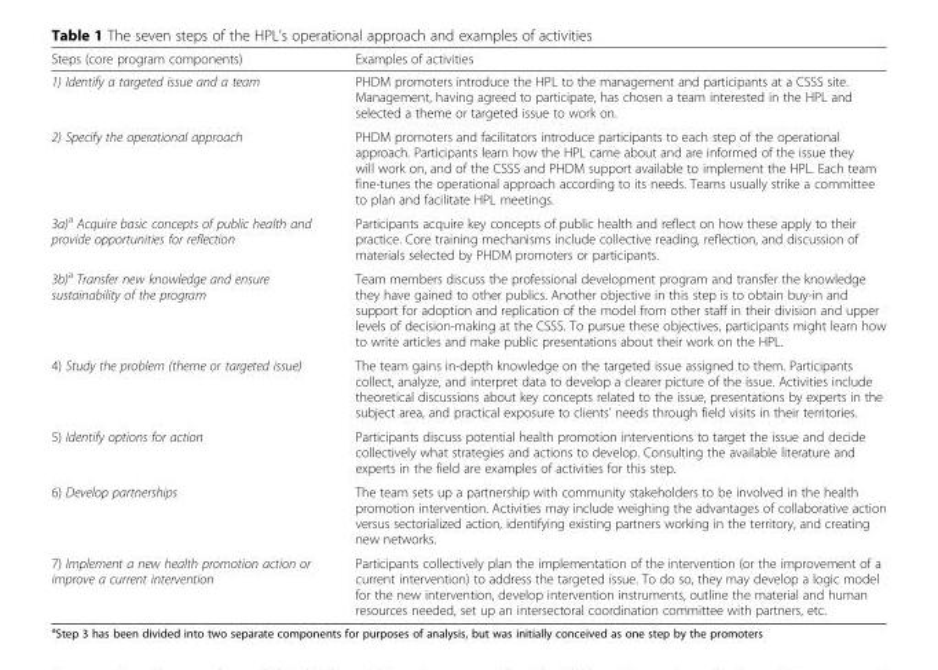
<table><thead><tr><td>Steps (core program components)</td><td>Examples of activities</td></tr></thead><tbody><tr><td>1) Identify a targeted issue and a team</td><td>PHDM promoters introduce the HPL to the management and participants at a CSSS site. Management, having agreed to participate, has chosen a team interested in the HPL and selected a theme or targeted issue to work on.</td></tr><tr><td>2) Specify the operational approach</td><td>PHDM promoters and facilitators introduce participants to each step of the operational approach. Participants learn how the HPL came about and are informed of the issue they will work on, and of the CSSS and PHDM support available to implement the HPL. Each team fine-tunes the operational approach according to its needs. Teams usually strike a committee to plan and facilitate HPL meetings.</td></tr><tr><td>3a)<sup>a</sup> Acquire basic concepts of public health and provide opportunities for reflection</td><td>Participants acquire key concepts of public health and reflect on how these apply to their practice. Core training mechanisms include collective reading, reflection, and discussion of materials selected by PHDM promoters or participants.</td></tr><tr><td>3b)<sup>a</sup> Transfer new knowledge and ensure sustainability of the program</td><td>Team members discuss the professional development program and transfer the knowledge they have gained to other publics. Another objective in this step is to obtain buy-in and support for adoption and replication of the model from other staff in their division and upper levels of decision-making at the CSSS. To pursue these objectives, participants might learn how to write articles and make public presentations about their work on the HPL.</td></tr><tr><td>4) Study the problem (theme or targeted issue)</td><td>The team gains in-depth knowledge on the targeted issue assigned to them. Participants collect, analyze, and interpret data to develop a clearer picture of the issue. Activities include theoretical discussions about key concepts related to the issue, presentations by experts in the subject area, and practical exposure to clients’ needs through field visits in their territories.</td></tr><tr><td>5) Identify options for action</td><td>Participants discuss potential health promotion interventions to target the issue and decide collectively what strategies and actions to develop. Consulting the available literature and experts in the field are examples of activities for this step.</td></tr><tr><td>6) Develop partnerships</td><td>The team sets up a partnership with community stakeholders to be involved in the health promotion intervention. Activities may include weighing the advantages of collaborative action versus sectorialized action, identifying existing partners working in the territory, and creating new networks.</td></tr><tr><td>7) Implement a new health promotion action or improve a current intervention</td><td>Participants collectively plan the implementation of the intervention (or the improvement of a current intervention) to address the targeted issue. To do so, they may develop a logic model for the new intervention, develop intervention instruments, outline the material and human resources needed, set up an intersectoral coordination committee with partners, etc.</td></tr></tbody></table>